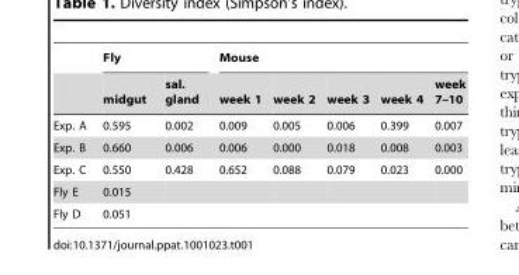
<table><thead><tr><td rowspan="2"></td><td colspan="2">Fly</td><td colspan="5">Mouse</td></tr><tr><td>midgut</td><td>sal. gland</td><td>week 1</td><td>week 2</td><td>week 3</td><td>week 4</td><td>week 7–10</td></tr></thead><tbody><tr><td>Exp. A</td><td>0.595</td><td>0.002</td><td>0.009</td><td>0.005</td><td>0.006</td><td>0.399</td><td>0.007</td></tr><tr><td>Exp. B</td><td>0.660</td><td>0.006</td><td>0.006</td><td>0.000</td><td>0.018</td><td>0.008</td><td>0.003</td></tr><tr><td>Exp. C</td><td>0.550</td><td>0.428</td><td>0.652</td><td>0.088</td><td>0.079</td><td>0.023</td><td>0.000</td></tr><tr><td>Fly E</td><td>0.015</td><td></td><td></td><td></td><td></td><td></td><td></td></tr><tr><td>Fly D</td><td>0.051</td><td></td><td></td><td></td><td></td><td></td><td></td></tr></tbody></table>